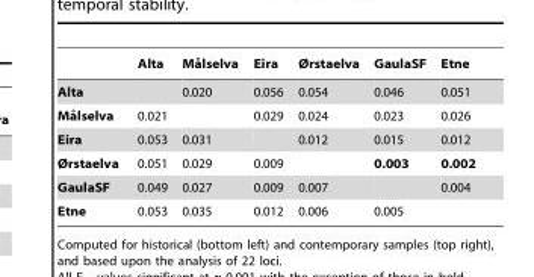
<table><thead><tr><td></td><td>Alta</td><td>Ma˚lselva</td><td>Eira</td><td>Ørstaelva</td><td>GaulaSF</td><td>Etne</td></tr></thead><tbody><tr><td>Alta</td><td></td><td>0.020</td><td>0.056</td><td>0.054</td><td>0.046</td><td>0.051</td></tr><tr><td>Ma˚lselva</td><td>0.021</td><td></td><td>0.029</td><td>0.024</td><td>0.023</td><td>0.026</td></tr><tr><td>Eira</td><td>0.053</td><td>0.031</td><td></td><td>0.012</td><td>0.015</td><td>0.012</td></tr><tr><td>Ørstaelva</td><td>0.051</td><td>0.029</td><td>0.009</td><td></td><td>0.003</td><td>0.002</td></tr><tr><td>GaulaSF</td><td>0.049</td><td>0.027</td><td>0.009</td><td>0.007</td><td></td><td>0.004</td></tr><tr><td>Etne</td><td>0.053</td><td>0.035</td><td>0.012</td><td>0.006</td><td>0.005</td><td></td></tr></tbody></table>